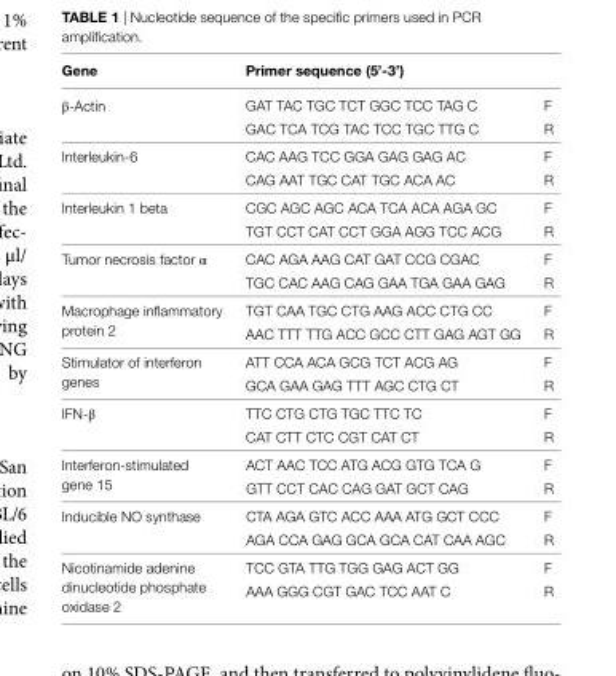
<table><thead><tr><td>gene</td><td>Primer sequence (5’-3’)</td><td></td></tr></thead><tbody><tr><td rowspan="2">β-Actin</td><td>GAT TAC TGC TCT GGC TCC TAG C</td><td>F</td></tr><tr><td>GAC TCA TCG TAC TCC TGC TTG C</td><td>R</td></tr><tr><td rowspan="2">Interleukin-6</td><td>CAC AAG TCC GGA GAG GAG AC</td><td>F</td></tr><tr><td>CAG AAT TGC CAT TGC ACA AC</td><td>R</td></tr><tr><td rowspan="2">Interleukin 1 beta</td><td>CGC AGC AGC ACA TCA ACA AGA GC</td><td>F</td></tr><tr><td>TGT CCT CAT CCT GGA AGG TCC ACG</td><td>R</td></tr><tr><td rowspan="2">Tumor necrosis factor α</td><td>CAC AGA AAG CAT GAT CCG CGAC</td><td>F</td></tr><tr><td>TGC CAC AAG CAG GAA TGA GAA GAG</td><td>R</td></tr><tr><td rowspan="2">Macrophage inflammatory protein 2</td><td>TGT CAA TGC CTG AAG ACC CTG CC</td><td>F</td></tr><tr><td>AAC TTT TTG ACC GCC CTT GAG AGT GG</td><td>R</td></tr><tr><td rowspan="2">Stimulator of interferon genes</td><td>ATT CCA ACA GCG TCT ACG AG</td><td>F</td></tr><tr><td>GCA GAA GAG TTT AGC CTG CT</td><td>R</td></tr><tr><td rowspan="2">IFN-β</td><td>TTC CTG CTG TGC TTC TC</td><td>F</td></tr><tr><td>CAT CTT CTC CGT CAT CT</td><td>R</td></tr><tr><td rowspan="2">Interferon-stimulated gene 15</td><td>ACT AAC TCC ATG ACG GTG TCA G</td><td>F</td></tr><tr><td>GTT CCT CAC CAG GAT GCT CAG</td><td>R</td></tr><tr><td rowspan="2">Inducible NO synthase</td><td>CTA AGA GTC ACC AAA ATG GCT CCC</td><td>F</td></tr><tr><td>AGA CCA GAG GCA GCA CAT CAA AGC</td><td>R</td></tr><tr><td rowspan="2">Nicotinamide adenine dinucleotide phosphate oxidase 2</td><td>TCC GTA TTG TGG GAG ACT GG</td><td>F</td></tr><tr><td>AAA GGG CGT GAC TCC AAT C</td><td>R</td></tr></tbody></table>